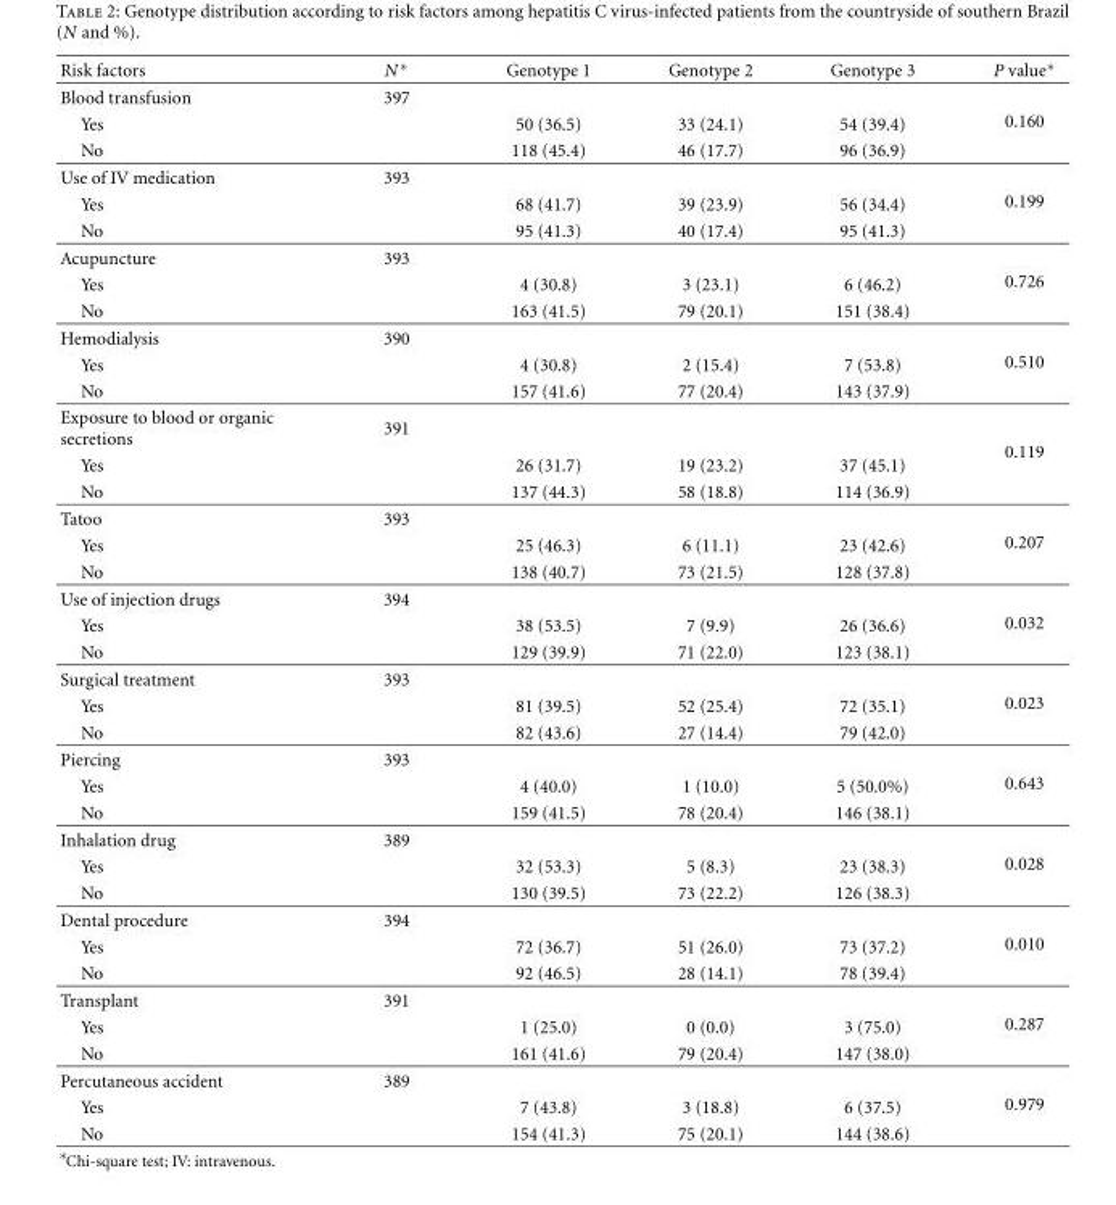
<table><thead><tr><td>Risk factors</td><td>N∗</td><td>Genotype 1</td><td>Genotype 2</td><td>Genotype 3</td><td>P value∗</td></tr></thead><tbody><tr><td>Blood transfusion</td><td>397</td><td></td><td></td><td></td><td rowspan="3">0.160</td></tr><tr><td>Yes</td><td></td><td>50 (36.5)</td><td>33 (24.1)</td><td>54 (39.4)</td></tr><tr><td>No</td><td></td><td>118 (45.4)</td><td>46 (17.7)</td><td>96 (36.9)</td></tr><tr><td>Use of IV medication</td><td>393</td><td></td><td></td><td></td><td rowspan="3">0.199</td></tr><tr><td>Yes</td><td></td><td>68 (41.7)</td><td>39 (23.9)</td><td>56 (34.4)</td></tr><tr><td>No</td><td></td><td>95 (41.3)</td><td>40 (17.4)</td><td>95 (41.3)</td></tr><tr><td>Acupuncture</td><td>393</td><td></td><td></td><td></td><td rowspan="3">0.726</td></tr><tr><td>Yes</td><td></td><td>4 (30.8)</td><td>3 (23.1)</td><td>6 (46.2)</td></tr><tr><td>No</td><td></td><td>163 (41.5)</td><td>79 (20.1)</td><td>151 (38.4)</td></tr><tr><td>Hemodialysis</td><td>390</td><td></td><td></td><td></td><td rowspan="3">0.510</td></tr><tr><td>Yes</td><td></td><td>4 (30.8)</td><td>2 (15.4)</td><td>7 (53.8)</td></tr><tr><td>No</td><td></td><td>157 (41.6)</td><td>77 (20.4)</td><td>143 (37.9)</td></tr><tr><td>Exposure to blood or organic secretions</td><td>391</td><td></td><td></td><td></td><td rowspan="3">0.119</td></tr><tr><td>Yes</td><td></td><td>26 (31.7)</td><td>19 (23.2)</td><td>37 (45.1)</td></tr><tr><td>No</td><td></td><td>137 (44.3)</td><td>58 (18.8)</td><td>114 (36.9)</td></tr><tr><td>Tatoo</td><td>393</td><td></td><td></td><td></td><td rowspan="3">0.207</td></tr><tr><td>Yes</td><td></td><td>25 (46.3)</td><td>6 (11.1)</td><td>23 (42.6)</td></tr><tr><td>No</td><td></td><td>138 (40.7)</td><td>73 (21.5)</td><td>128 (37.8)</td></tr><tr><td>Use of injection drugs</td><td>394</td><td></td><td></td><td></td><td rowspan="3">0.032</td></tr><tr><td>Yes</td><td></td><td>38 (53.5)</td><td>7 (9.9)</td><td>26 (36.6)</td></tr><tr><td>No</td><td></td><td>129 (39.9)</td><td>71 (22.0)</td><td>123 (38.1)</td></tr><tr><td>Surgical treatment</td><td>393</td><td></td><td></td><td></td><td rowspan="3">0.023</td></tr><tr><td>Yes</td><td></td><td>81 (39.5)</td><td>52 (25.4)</td><td>72 (35.1)</td></tr><tr><td>No</td><td></td><td>82 (43.6)</td><td>27 (14.4)</td><td>79 (42.0)</td></tr><tr><td>Piercing</td><td>393</td><td></td><td></td><td></td><td rowspan="3">0.643</td></tr><tr><td>Yes</td><td></td><td>4 (40.0)</td><td>1 (10.0)</td><td>5 (50.0%)</td></tr><tr><td>No</td><td></td><td>159 (41.5)</td><td>78 (20.4)</td><td>146 (38.1)</td></tr><tr><td>Inhalation drug</td><td>389</td><td></td><td></td><td></td><td rowspan="3">0.028</td></tr><tr><td>Yes</td><td></td><td>32 (53.3)</td><td>5 (8.3)</td><td>23 (38.3)</td></tr><tr><td>No</td><td></td><td>130 (39.5)</td><td>73 (22.2)</td><td>126 (38.3)</td></tr><tr><td>Dental procedure</td><td>394</td><td></td><td></td><td></td><td rowspan="3">0.010</td></tr><tr><td>Yes</td><td></td><td>72 (36.7)</td><td>51 (26.0)</td><td>73 (37.2)</td></tr><tr><td>No</td><td></td><td>92 (46.5)</td><td>28 (14.1)</td><td>78 (39.4)</td></tr><tr><td>Transplant</td><td>391</td><td></td><td></td><td></td><td rowspan="3">0.287</td></tr><tr><td>Yes</td><td></td><td>1 (25.0)</td><td>0 (0.0)</td><td>3 (75.0)</td></tr><tr><td>No</td><td></td><td>161 (41.6)</td><td>79 (20.4)</td><td>147 (38.0)</td></tr><tr><td>Percutaneous accident</td><td>389</td><td></td><td></td><td></td><td rowspan="3">0.979</td></tr><tr><td>Yes</td><td></td><td>7 (43.8)</td><td>3 (18.8)</td><td>6 (37.5)</td></tr><tr><td>No</td><td></td><td>154 (41.3)</td><td>75 (20.1)</td><td>144 (38.6)</td></tr></tbody></table>